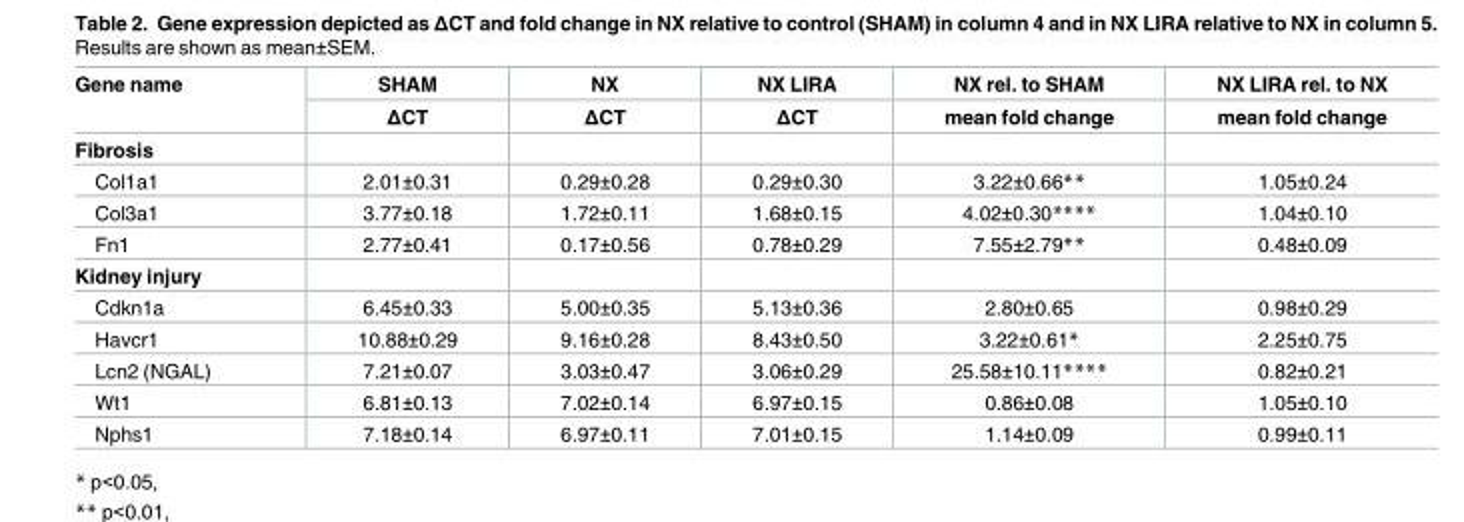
<table><thead><tr><td rowspan="2">Gene name</td><td rowspan="2">SHAM ΔCT</td><td rowspan="2">NX ΔCT</td><td rowspan="2">NX LIRA ΔCT</td><td rowspan="2">NX rel. to SHAM mean fold change</td><td rowspan="2">NX LIRA rel. to NX mean fold change</td></tr><tr></tr></thead><tbody><tr><td colspan="6">Fibrosis</td></tr><tr><td>Col1a1</td><td>2.01±0.31</td><td>0.29±0.28</td><td>0.29±0.30</td><td>3.22±0.66**</td><td>1.05±0.24</td></tr><tr><td>Col3a1</td><td>3.77±0.18</td><td>1.72±0.11</td><td>1.68±0.15</td><td>4.02±0.30****</td><td>1.04±0.10</td></tr><tr><td>Fn1</td><td>2.77±0.41</td><td>0.17±0.56</td><td>0.78±0.29</td><td>7.55±2.79**</td><td>0.48±0.09</td></tr><tr><td colspan="6">Kidney injury</td></tr><tr><td>Cdkn1a</td><td>6.45±0.33</td><td>5.00±0.35</td><td>5.13±0.36</td><td>2.80±0.65</td><td>0.98±0.29</td></tr><tr><td>Havcr1</td><td>10.88±0.29</td><td>9.16±0.28</td><td>8.43±0.50</td><td>3.22±0.61*</td><td>2.25±0.75</td></tr><tr><td>Lcn2 (NGAL)</td><td>7.21±0.07</td><td>3.03±0.47</td><td>3.06±0.29</td><td>25.58±10.11****</td><td>0.82±0.21</td></tr><tr><td>Wt1</td><td>6.81±0.13</td><td>7.02±0.14</td><td>6.97±0.15</td><td>0.86±0.08</td><td>1.05±0.10</td></tr><tr><td>Nphs1</td><td>7.18±0.14</td><td>6.97±0.11</td><td>7.01±0.15</td><td>1.14±0.09</td><td>0.99±0.11</td></tr></tbody></table>